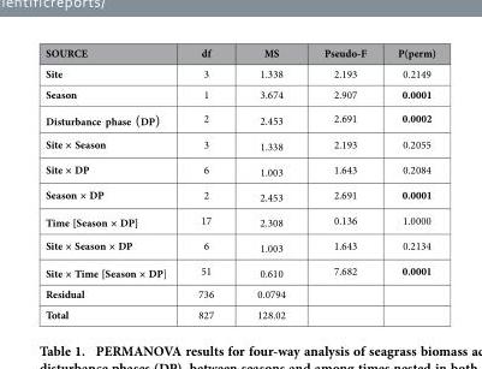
<table><thead><tr><td>SOURCE</td><td>df</td><td>MS</td><td>Pseudo-F</td><td>P(perm)</td></tr></thead><tbody><tr><td>Site</td><td>3</td><td>1.338</td><td>2.193</td><td>0.2149</td></tr><tr><td>Season</td><td>1</td><td>3.674</td><td>2.907</td><td>0.0001</td></tr><tr><td>Disturbance phase (DP)</td><td>2</td><td>2.453</td><td>2.691</td><td>0.0002</td></tr><tr><td>Site × Season</td><td>3</td><td>1.338</td><td>2.193</td><td>0.2055</td></tr><tr><td>Site × DP</td><td>6</td><td>1.003</td><td>1.643</td><td>0.2084</td></tr><tr><td>Season × DP</td><td>2</td><td>2.453</td><td>2.691</td><td>0.0001</td></tr><tr><td>Time [Season × DP]</td><td>17</td><td>2.308</td><td>0.136</td><td>1.0000</td></tr><tr><td>Site × Season × DP</td><td>6</td><td>1.003</td><td>1.643</td><td>0.2134</td></tr><tr><td>Site × Time [Season × DP]</td><td>51</td><td>0.610</td><td>7.682</td><td>0.0001</td></tr><tr><td>Residual</td><td>736</td><td>0.0794</td><td></td><td></td></tr><tr><td>Total</td><td>827</td><td>128.02</td><td></td><td></td></tr></tbody></table>